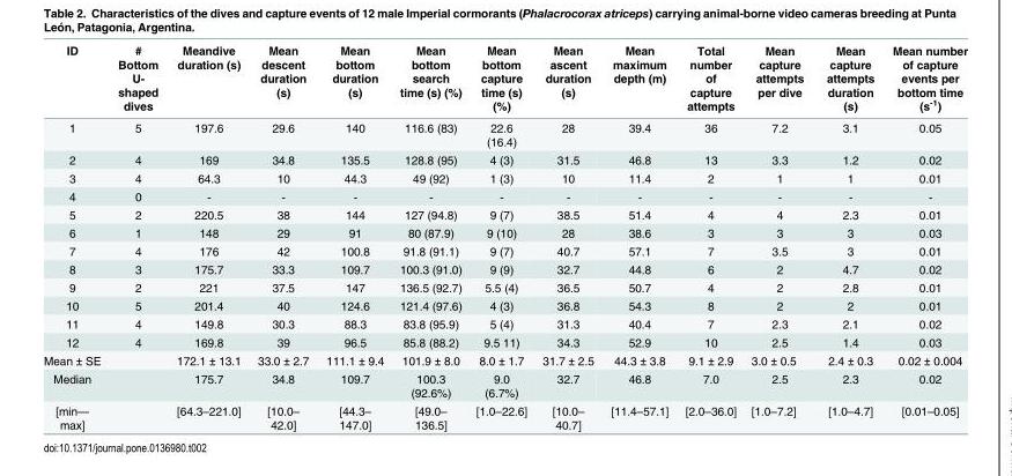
<table><thead><tr><td>ID</td><td># Bottom U- shaped dives</td><td>Meandive duration (s)</td><td>Mean descent duration (s)</td><td>Mean bottom duration (s)</td><td>Mean bottom search time (s) (%)</td><td>Mean bottom capture time (s) (%)</td><td>Mean ascent duration (s)</td><td>Mean maximum depth (m)</td><td>Total number of capture attempts</td><td>Mean capture attempts per dive</td><td>Mean capture attempts duration (s)</td><td>Mean number of capture events per bottom time (s<sup>-1</sup>)</td></tr></thead><tbody><tr><td>1</td><td>5</td><td>197.6</td><td>29.6</td><td>140</td><td>116.6 (83)</td><td>22.6 (16.4)</td><td>28</td><td>39.4</td><td>36</td><td>7.2</td><td>3.1</td><td>0.05</td></tr><tr><td>2</td><td>4</td><td>169</td><td>34.8</td><td>135.5</td><td>128.8 (95)</td><td>4 (3)</td><td>31.5</td><td>46.8</td><td>13</td><td>3.3</td><td>1.2</td><td>0.02</td></tr><tr><td>3</td><td>4</td><td>64.3</td><td>10</td><td>44.3</td><td>49 (92)</td><td>1 (3)</td><td>10</td><td>11.4</td><td>2</td><td>1</td><td>1</td><td>0.01</td></tr><tr><td>4</td><td>0</td><td>-</td><td>-</td><td>-</td><td>-</td><td>-</td><td>-</td><td>-</td><td>-</td><td>-</td><td>-</td><td>-</td></tr><tr><td>5</td><td>2</td><td>220.5</td><td>38</td><td>144</td><td>127 (94.8)</td><td>9 (7)</td><td>38.5</td><td>51.4</td><td>4</td><td>4</td><td>2.3</td><td>0.01</td></tr><tr><td>6</td><td>1</td><td>148</td><td>29</td><td>91</td><td>80 (87.9)</td><td>9 (10)</td><td>28</td><td>38.6</td><td>3</td><td>3</td><td>3</td><td>0.03</td></tr><tr><td>7</td><td>4</td><td>176</td><td>42</td><td>100.8</td><td>91.8 (91.1)</td><td>9 (7)</td><td>40.7</td><td>57.1</td><td>7</td><td>3.5</td><td>3</td><td>0.01</td></tr><tr><td>8</td><td>3</td><td>175.7</td><td>33.3</td><td>109.7</td><td>100.3 (91.0)</td><td>9 (9)</td><td>32.7</td><td>44.8</td><td>6</td><td>2</td><td>4.7</td><td>0.02</td></tr><tr><td>9</td><td>2</td><td>221</td><td>37.5</td><td>147</td><td>136.5 (92.7)</td><td>5.5 (4)</td><td>36.5</td><td>50.7</td><td>4</td><td>2</td><td>2.8</td><td>0.01</td></tr><tr><td>10</td><td>5</td><td>201.4</td><td>40</td><td>124.6</td><td>121.4 (97.6)</td><td>4 (3)</td><td>36.8</td><td>54.3</td><td>8</td><td>2</td><td>2</td><td>0.01</td></tr><tr><td>11</td><td>4</td><td>149.8</td><td>30.3</td><td>88.3</td><td>83.8 (95.9)</td><td>5 (4)</td><td>31.3</td><td>40.4</td><td>7</td><td>2.3</td><td>2.1</td><td>0.02</td></tr><tr><td>12</td><td>4</td><td>169.8</td><td>39</td><td>96.5</td><td>85.8 (88.2)</td><td>9.5 11)</td><td>34.3</td><td>52.9</td><td>10</td><td>2.5</td><td>1.4</td><td>0.03</td></tr><tr><td>Mean ± SE</td><td></td><td>172.1 ± 13.1</td><td>33.0 ± 2.7</td><td>111.1 ± 9.4</td><td>101.9 ± 8.0</td><td>8.0 ± 1.7</td><td>31.7 ± 2.5</td><td>44.3 ± 3.8</td><td>9.1 ± 2.9</td><td>3.0 ± 0.5</td><td>2.4 ± 0.3</td><td>0.02 ± 0.004</td></tr><tr><td>Median</td><td></td><td>175.7</td><td>34.8</td><td>109.7</td><td>100.3 (92.6%)</td><td>9.0 (6.7%)</td><td>32.7</td><td>46.8</td><td>7.0</td><td>2.5</td><td>2.3</td><td>0.02</td></tr><tr><td>[min— max]</td><td></td><td>[64.3–221.0]</td><td>[10.0– 42.0]</td><td>[44.3– 147.0]</td><td>[49.0– 136.5]</td><td>[1.0–22.6]</td><td>[10.0– 40.7]</td><td>[11.4–57.1]</td><td>[2.0–36.0]</td><td>[1.0–7.2]</td><td>[1.0–4.7]</td><td>[0.01–0.05]</td></tr></tbody></table>